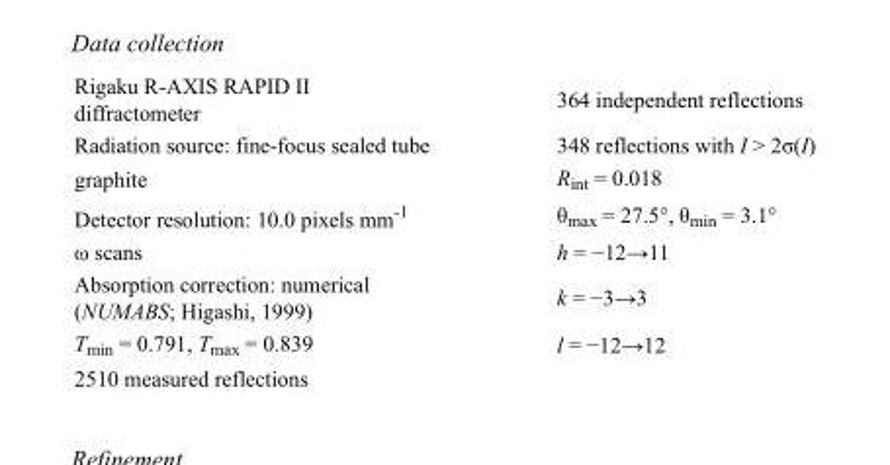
<table><tbody><tr><td>Rigaku R-AXIS RAPID II diffractometer</td><td>364 independent reflections</td></tr><tr><td>Radiation source: fine-focus sealed tube</td><td>348 reflections with I &gt; 2σ(I)</td></tr><tr><td>graphite</td><td>R<sub>int</sub> = 0.018</td></tr><tr><td>Detector resolution: 10.0 pixels mm<sup>-1</sup></td><td>θ<sub>max</sub> = 27.5°, θ<sub>min</sub> = 3.1°</td></tr><tr><td>ω scans</td><td>h = −12→11</td></tr><tr><td>Absorption correction: numerical (NUMABS; Higashi, 1999)</td><td>k = −3→3</td></tr><tr><td>T<sub>min</sub> = 0.791, T<sub>max</sub> = 0.839</td><td>l = −12→12</td></tr><tr><td>2510 measured reflections</td><td></td></tr></tbody></table>